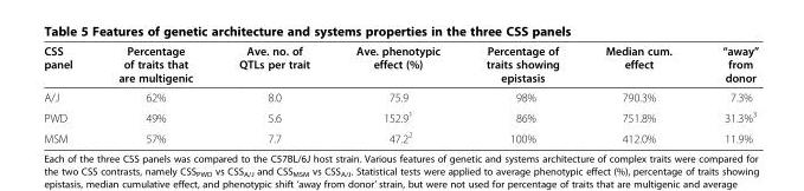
<table><thead><tr><td>CSS panel</td><td>Percentage of traits that are multigenic</td><td>Ave. no. of QTLs per trait</td><td>Ave. phenotypic effect (%)</td><td>Percentage of traits showing epistasis</td><td>Median cum. effect</td><td>“away” from donor</td></tr></thead><tbody><tr><td>A/J</td><td>62%</td><td>8.0</td><td>75.9</td><td>98%</td><td>790.3%</td><td>7.3%</td></tr><tr><td>PWD</td><td>49%</td><td>5.6</td><td>152.9<sup>1</sup></td><td>86%</td><td>751.8%</td><td>31.3%<sup>3</sup></td></tr><tr><td>MSM</td><td>57%</td><td>7.7</td><td>47.2<sup>2</sup></td><td>100%</td><td>412.0%</td><td>11.9%</td></tr></tbody></table>